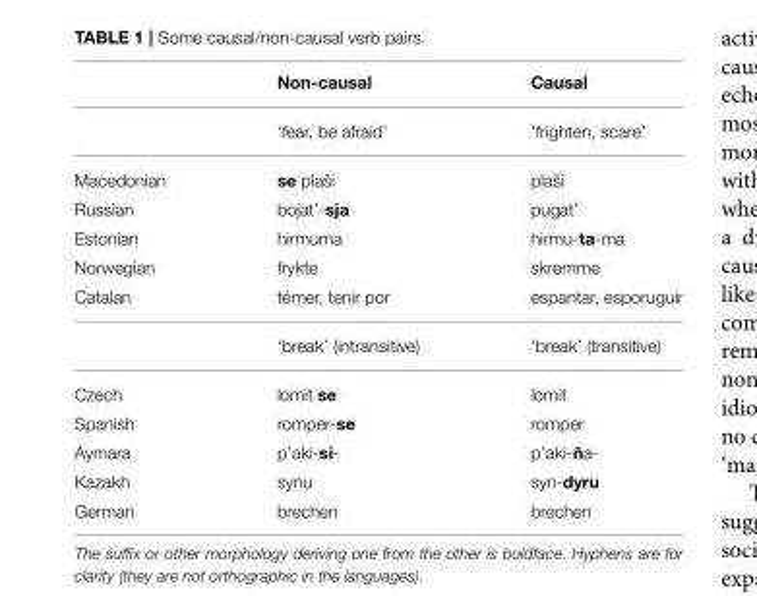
<table><thead><tr><td></td><td>Non-causal</td><td>Causal</td></tr></thead><tbody><tr><td></td><td>‘fear, be afraid’</td><td>‘frighten, scare’</td></tr><tr><td>Macedonian</td><td>se plaši</td><td>plaši</td></tr><tr><td>Russian</td><td>bojat’-sja</td><td>pugat’</td></tr><tr><td>Estonian</td><td>hirmuma</td><td>hirmu-ta-ma</td></tr><tr><td>Norwegian</td><td>frykte</td><td>skremme</td></tr><tr><td rowspan="2">Catalan</td><td>témer, tenir por</td><td>espantar, esporuguir</td></tr><tr><td>‘break’ (intransitive)</td><td>‘break’ (transitive)</td></tr><tr><td>Czech</td><td>lomit se</td><td>lomit</td></tr><tr><td>Spanish</td><td>romper-se</td><td>romper</td></tr><tr><td>Aymara</td><td>p’aki-si-</td><td>p’aki-ña-</td></tr><tr><td>Kazakh</td><td>synu</td><td>syn-dyru</td></tr><tr><td>German</td><td>brechen</td><td>brechen</td></tr></tbody></table>